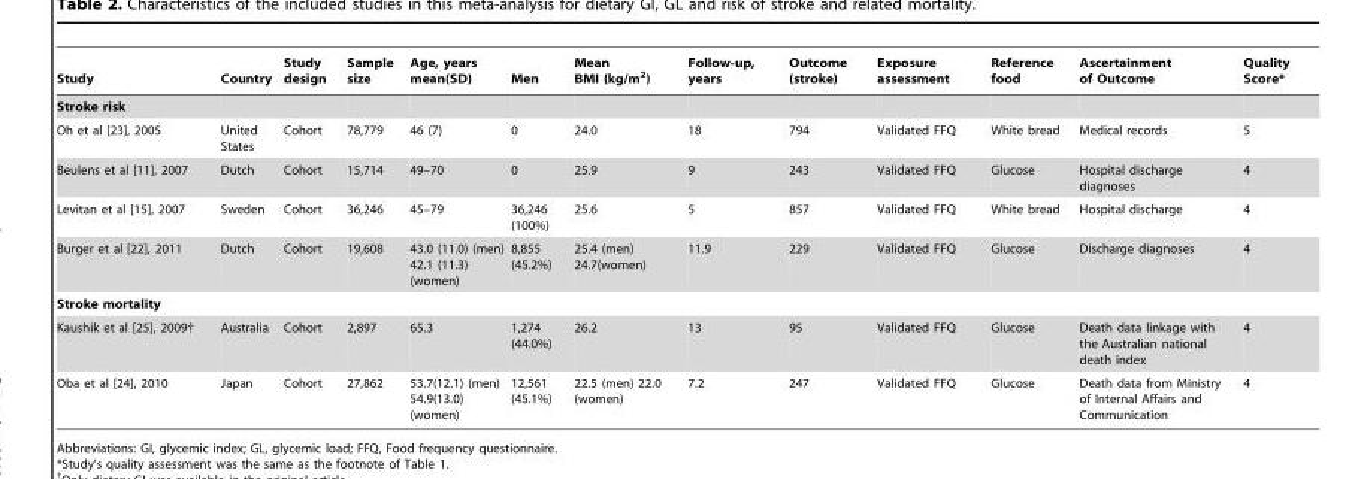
<table><thead><tr><td>Study</td><td>Country</td><td>Study design</td><td>Sample size</td><td>Age, years mean(SD)</td><td>Men</td><td>Mean BMI (kg/m<sup>2</sup>)</td><td>Follow-up, years</td><td>Outcome (stroke)</td><td>Exposure assessment</td><td>Reference food</td><td>Ascertainment of Outcome</td><td>Quality Score*</td></tr></thead><tbody><tr><td colspan="13">Stroke risk</td></tr><tr><td>Oh et al [23], 2005</td><td>United States</td><td>Cohort</td><td>78,779</td><td>46 (7)</td><td>0</td><td>24.0</td><td>18</td><td>794</td><td>Validated FFQ</td><td>White bread</td><td>Medical records</td><td>5</td></tr><tr><td>Beulens et al [11], 2007</td><td>Dutch</td><td>Cohort</td><td>15,714</td><td>49–70</td><td>0</td><td>25.9</td><td>9</td><td>243</td><td>Validated FFQ</td><td>Glucose</td><td>Hospital discharge diagnoses</td><td>4</td></tr><tr><td>Levitan et al [15], 2007</td><td>Sweden</td><td>Cohort</td><td>36,246</td><td>45–79</td><td>36,246 (100%)</td><td>25.6</td><td>5</td><td>857</td><td>Validated FFQ</td><td>White bread</td><td>Hospital discharge</td><td>4</td></tr><tr><td>Burger et al [22], 2011</td><td>Dutch</td><td>Cohort</td><td>19,608</td><td>43.0 (11.0) (men) 42.1 (11.3) (women)</td><td>8,855 (45.2%)</td><td>25.4 (men) 24.7(women)</td><td>11.9</td><td>229</td><td>Validated FFQ</td><td>Glucose</td><td>Discharge diagnoses</td><td>4</td></tr><tr><td colspan="13">Stroke mortality</td></tr><tr><td>Kaushik et al [25], 2009†</td><td>Australia</td><td>Cohort</td><td>2,897</td><td>65.3</td><td>1,274 (44.0%)</td><td>26.2</td><td>13</td><td>95</td><td>Validated FFQ</td><td>Glucose</td><td>Death data linkage with the Australian national death index</td><td>4</td></tr><tr><td>Oba et al [24], 2010</td><td>Japan</td><td>Cohort</td><td>27,862</td><td>53.7(12.1) (men) 54.9(13.0) (women)</td><td>12,561 (45.1%)</td><td>22.5 (men) 22.0 (women)</td><td>7.2</td><td>247</td><td>Validated FFQ</td><td>Glucose</td><td>Death data from Ministry of Internal Affairs and Communication</td><td>4</td></tr></tbody></table>